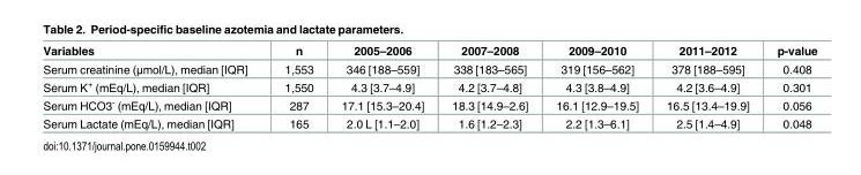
<table><thead><tr><td>Variables</td><td>n</td><td>2005–2006</td><td>2007–2008</td><td>2009–2010</td><td>2011–2012</td><td>p-value</td></tr></thead><tbody><tr><td>Serum creatinine (μmol/L), median [IQR]</td><td>1,553</td><td>346 [188–559]</td><td>338 [183–565]</td><td>319 [156–562]</td><td>378 [188–595]</td><td>0.408</td></tr><tr><td>Serum K<sup>+</sup> (mEq/L), median [IQR]</td><td>1,550</td><td>4.3 [3.7–4.9]</td><td>4.2 [3.7–4.8]</td><td>4.3 [3.8–4.9]</td><td>4.2 [3.6–4.9]</td><td>0.301</td></tr><tr><td>Serum HCO3<sup>-</sup> (mEq/L), median [IQR]</td><td>287</td><td>17.1 [15.3–20.4]</td><td>18.3 [14.9–2.6]</td><td>16.1 [12.9–19.5]</td><td>16.5 [13.4–19.9]</td><td>0.056</td></tr><tr><td>Serum Lactate (mEq/L), median [IQR]</td><td>165</td><td>2.0 L [1.1–2.0]</td><td>1.6 [1.2–2.3]</td><td>2.2 [1.3–6.1]</td><td>2.5 [1.4–4.9]</td><td>0.048</td></tr></tbody></table>